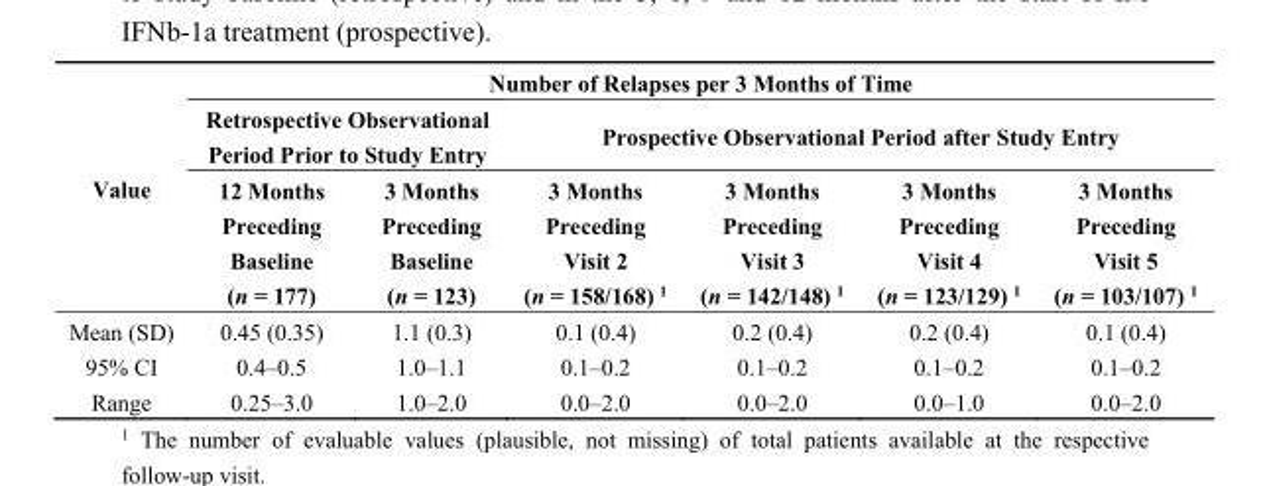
<table><thead><tr><td rowspan="3">Value</td><td colspan="6">Number of Relapses per 3 Months of Time</td></tr><tr><td colspan="2">Retrospective Observational Period Prior to Study Entry</td><td colspan="4">Prospective Observational Period after Study Entry</td></tr><tr><td>12 Months Preceding Baseline (n = 177)</td><td>3 Months Preceding Baseline (n = 123)</td><td>3 Months Preceding Visit 2 (n = 158/168) <sup>1</sup></td><td>3 Months Preceding Visit 3 (n = 142/148) <sup>1</sup></td><td>3 Months Preceding Visit 4 (n = 123/129) <sup>1</sup></td><td>3 Months Preceding Visit 5 (n = 103/107) <sup>1</sup></td></tr></thead><tbody><tr><td>Mean (SD)</td><td>0.45 (0.35)</td><td>1.1 (0.3)</td><td>0.1 (0.4)</td><td>0.2 (0.4)</td><td>0.2 (0.4)</td><td>0.1 (0.4)</td></tr><tr><td>95% CI</td><td>0.4–0.5</td><td>1.0–1.1</td><td>0.1–0.2</td><td>0.1–0.2</td><td>0.1–0.2</td><td>0.1–0.2</td></tr><tr><td>Range</td><td>0.25–3.0</td><td>1.0–2.0</td><td>0.0–2.0</td><td>0.0–2.0</td><td>0.0–1.0</td><td>0.0–2.0</td></tr></tbody></table>